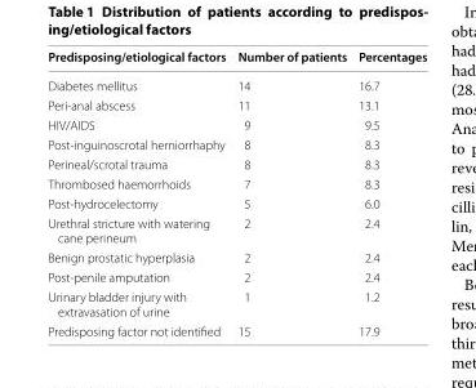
<table><thead><tr><td>Predisposing/etiological factors</td><td>Number of patients</td><td>Percentages</td></tr></thead><tbody><tr><td>Diabetes mellitus</td><td>14</td><td>16.7</td></tr><tr><td>Peri-anal abscess</td><td>11</td><td>13.1</td></tr><tr><td>HIV/AIDS</td><td>9</td><td>9.5</td></tr><tr><td>Post-inguinoscrotal herniorrhaphy</td><td>8</td><td>8.3</td></tr><tr><td>Perineal/scrotal trauma</td><td>8</td><td>8.3</td></tr><tr><td>Thrombosed haemorrhoids</td><td>7</td><td>8.3</td></tr><tr><td>Post-hydrocelectomy</td><td>5</td><td>6.0</td></tr><tr><td>Urethral stricture with watering cane perineum</td><td>2</td><td>2.4</td></tr><tr><td>Benign prostatic hyperplasia</td><td>2</td><td>2.4</td></tr><tr><td>Post-penile amputation</td><td>2</td><td>2.4</td></tr><tr><td>Urinary bladder injury with extravasation of urine</td><td>1</td><td>1.2</td></tr><tr><td>Predisposing factor not identified</td><td>15</td><td>17.9</td></tr></tbody></table>